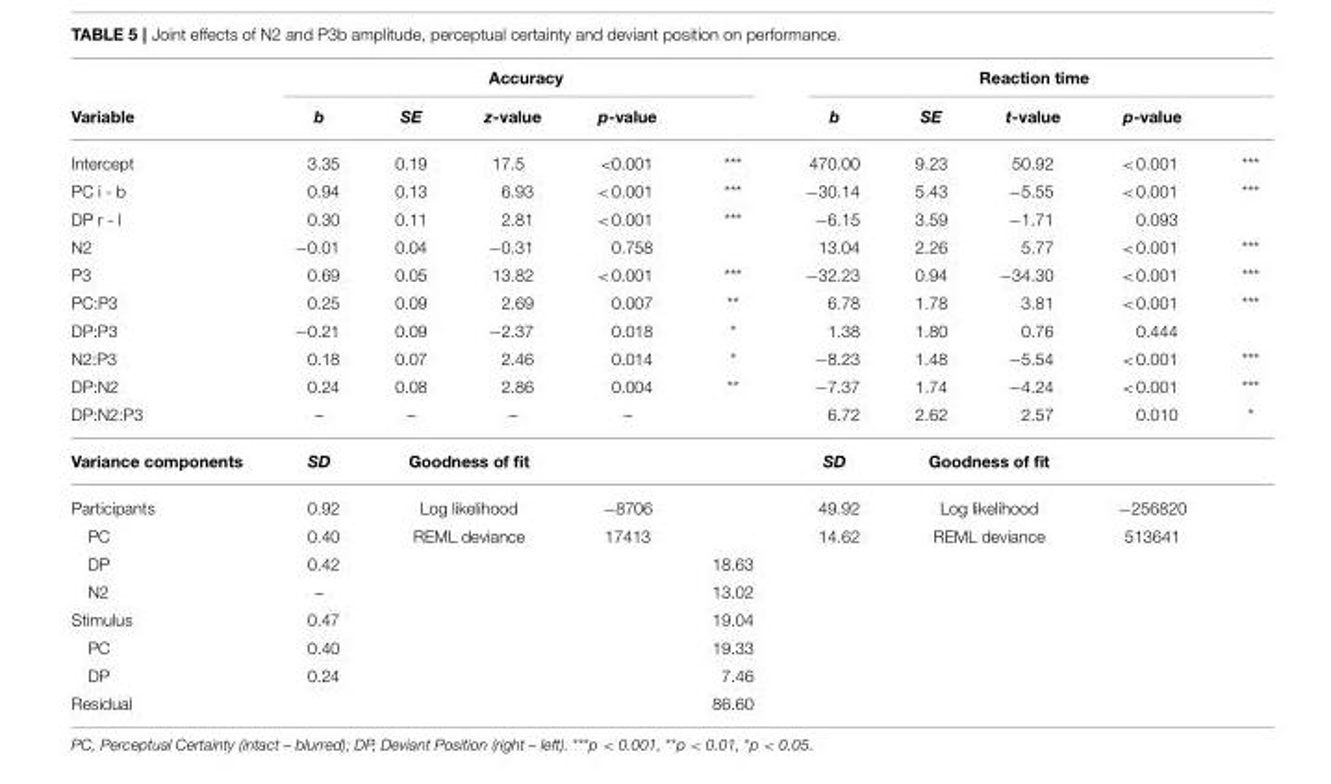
<table><thead><tr><td rowspan="2">Variable</td><td colspan="5">Accuracy</td><td colspan="5">Reaction time</td></tr><tr><td>b</td><td>SE</td><td>z-value</td><td>p-value</td><td></td><td>b</td><td>SE</td><td>t-value</td><td>p-value</td><td></td></tr></thead><tbody><tr><td>Intercept</td><td>3.35</td><td>0.19</td><td>17.5</td><td>&lt;0.001</td><td>***</td><td>470.00</td><td>9.23</td><td>50.92</td><td>&lt;0.001</td><td>***</td></tr><tr><td>PC i - b</td><td>0.94</td><td>0.13</td><td>6.93</td><td>&lt;0.001</td><td>***</td><td>−30.14</td><td>5.43</td><td>−5.55</td><td>&lt;0.001</td><td>***</td></tr><tr><td>DP r - l</td><td>0.30</td><td>0.11</td><td>2.81</td><td>&lt;0.001</td><td>***</td><td>−6.15</td><td>3.59</td><td>−1.71</td><td>0.093</td><td></td></tr><tr><td>N2</td><td>−0.01</td><td>0.04</td><td>−0.31</td><td>0.758</td><td></td><td>13.04</td><td>2.26</td><td>5.77</td><td>&lt;0.001</td><td>***</td></tr><tr><td>P3</td><td>0.69</td><td>0.05</td><td>13.82</td><td>&lt;0.001</td><td>***</td><td>−32.23</td><td>0.94</td><td>−34.30</td><td>&lt;0.001</td><td>***</td></tr><tr><td>PC:P3</td><td>0.25</td><td>0.09</td><td>2.69</td><td>0.007</td><td>**</td><td>6.78</td><td>1.78</td><td>3.81</td><td>&lt;0.001</td><td>***</td></tr><tr><td>DP:P3</td><td>−0.21</td><td>0.09</td><td>−2.37</td><td>0.018</td><td>*</td><td>1.38</td><td>1.80</td><td>0.76</td><td>0.444</td><td></td></tr><tr><td>N2:P3</td><td>0.18</td><td>0.07</td><td>2.46</td><td>0.014</td><td>*</td><td>−8.23</td><td>1.48</td><td>−5.54</td><td>&lt;0.001</td><td>***</td></tr><tr><td>DP:N2</td><td>0.24</td><td>0.08</td><td>2.86</td><td>0.004</td><td>**</td><td>−7.37</td><td>1.74</td><td>−4.24</td><td>&lt;0.001</td><td>***</td></tr><tr><td>DP:N2:P3</td><td>–</td><td>–</td><td>–</td><td>–</td><td></td><td>6.72</td><td>2.62</td><td>2.57</td><td>0.010</td><td>*</td></tr><tr><td>Variance components</td><td>SD</td><td colspan="2">Goodness of fit</td><td></td><td></td><td>SD</td><td colspan="2">Goodness of fit</td><td></td><td></td></tr><tr><td>Participants</td><td>0.92</td><td colspan="2">Log likelihood</td><td>−8706</td><td></td><td>49.92</td><td colspan="2">Log likelihood</td><td>−256820</td><td></td></tr><tr><td>PC</td><td>0.40</td><td colspan="2">REML deviance</td><td>17413</td><td></td><td>14.62</td><td colspan="2">REML deviance</td><td>513641</td><td></td></tr><tr><td>DP</td><td>0.42</td><td></td><td></td><td></td><td>18.63</td><td></td><td></td><td></td><td></td><td></td></tr><tr><td>N2</td><td>–</td><td></td><td></td><td></td><td>13.02</td><td></td><td></td><td></td><td></td><td></td></tr><tr><td>Stimulus</td><td>0.47</td><td></td><td></td><td></td><td>19.04</td><td></td><td></td><td></td><td></td><td></td></tr><tr><td>PC</td><td>0.40</td><td></td><td></td><td></td><td>19.33</td><td></td><td></td><td></td><td></td><td></td></tr><tr><td>DP</td><td>0.24</td><td></td><td></td><td></td><td>7.46</td><td></td><td></td><td></td><td></td><td></td></tr><tr><td>Residual</td><td></td><td></td><td></td><td></td><td>86.60</td><td></td><td></td><td></td><td></td><td></td></tr></tbody></table>